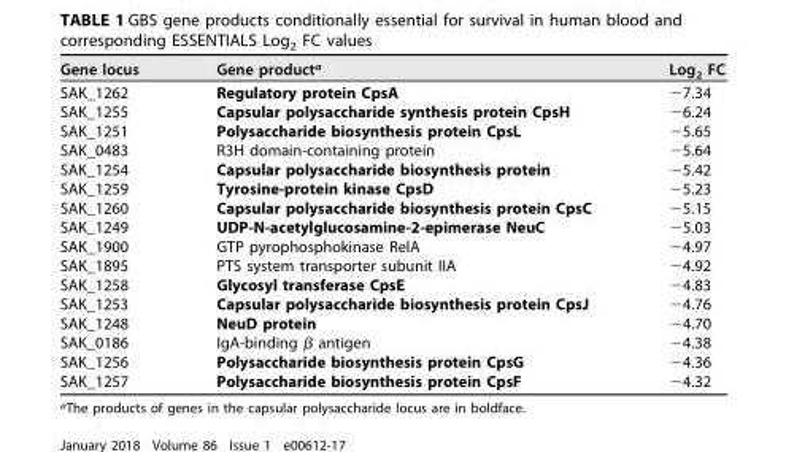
<table><thead><tr><td>Gene locus</td><td>Gene product<sup>a</sup></td><td>Log<sub>2</sub> FC</td></tr></thead><tbody><tr><td>SAK_1262</td><td>Regulatory protein CpsA</td><td>−7.34</td></tr><tr><td>SAK_1255</td><td>Capsular polysaccharide synthesis protein CpsH</td><td>−6.24</td></tr><tr><td>SAK_1251</td><td>Polysaccharide biosynthesis protein CpsL</td><td>−5.65</td></tr><tr><td>SAK_0483</td><td>R3H domain-containing protein</td><td>−5.64</td></tr><tr><td>SAK_1254</td><td>Capsular polysaccharide biosynthesis protein</td><td>−5.42</td></tr><tr><td>SAK_1259</td><td>Tyrosine-protein kinase CpsD</td><td>−5.23</td></tr><tr><td>SAK_1260</td><td>Capsular polysaccharide biosynthesis protein CpsC</td><td>−5.15</td></tr><tr><td>SAK_1249</td><td>UDP-N-acetylglucosamine-2-epimerase NeuC</td><td>−5.03</td></tr><tr><td>SAK_1900</td><td>GTP pyrophosphokinase RelA</td><td>−4.97</td></tr><tr><td>SAK_1895</td><td>PTS system transporter subunit IIA</td><td>−4.92</td></tr><tr><td>SAK_1258</td><td>Glycosyl transferase CpsE</td><td>−4.83</td></tr><tr><td>SAK_1253</td><td>Capsular polysaccharide biosynthesis protein CpsJ</td><td>−4.76</td></tr><tr><td>SAK_1248</td><td>NeuD protein</td><td>−4.70</td></tr><tr><td>SAK_0186</td><td>IgA-binding β antigen</td><td>−4.38</td></tr><tr><td>SAK_1256</td><td>Polysaccharide biosynthesis protein CpsG</td><td>−4.36</td></tr><tr><td>SAK_1257</td><td>Polysaccharide biosynthesis protein CpsF</td><td>−4.32</td></tr></tbody></table>